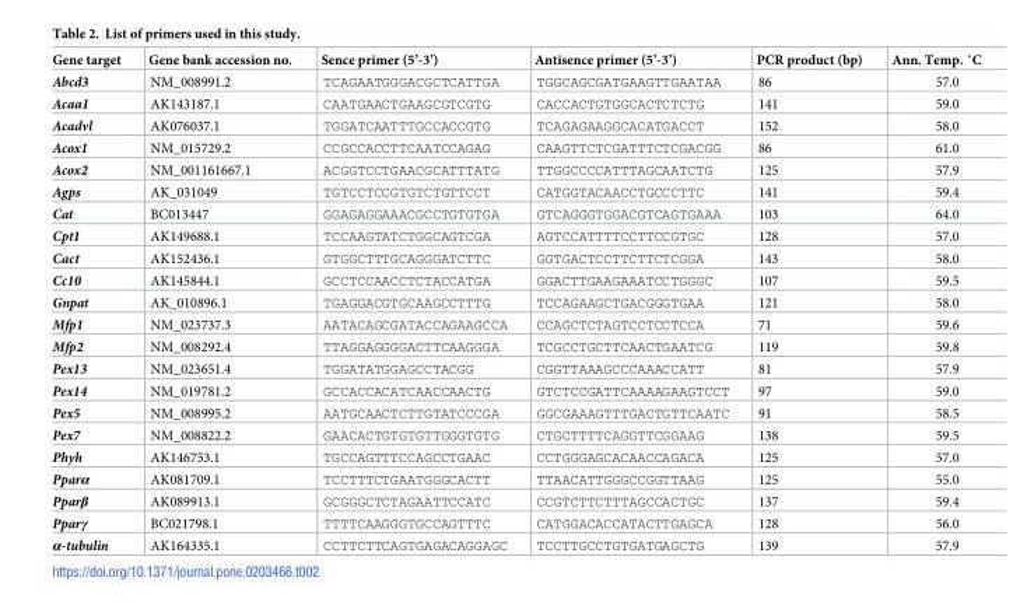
<table><thead><tr><td>Gene target</td><td>Gene bank accession no.</td><td>Sence primer (5’-3’)</td><td>Antisence primer (5’-3’)</td><td>PCR product (bp)</td><td>Ann. Temp. ˚C</td></tr></thead><tbody><tr><td>Abcd3</td><td>NM_008991.2</td><td>TCAGAATGGGACGCTCATTGA</td><td>TGGCAGCGATGAAGTTGAATAA</td><td>86</td><td>57.0</td></tr><tr><td>Acaa1</td><td>AK143187.1</td><td>CAATGAACTGAAGCGTCGTG</td><td>CACCACTGTGGCACTCTCTG</td><td>141</td><td>59.0</td></tr><tr><td>Acadvl</td><td>AK076037.1</td><td>TGGATCAATTTGCCACCGTG</td><td>TCAGAGAAGGCACATGACCT</td><td>152</td><td>58.0</td></tr><tr><td>Acox1</td><td>NM_015729.2</td><td>CCGCCACCTTCAATCCAGAG</td><td>CAAGTTCTCGATTTCTCGACGG</td><td>86</td><td>61.0</td></tr><tr><td>Acox2</td><td>NM_001161667.1</td><td>ACGGTCCTGAACGCATTTATG</td><td>TTGGCCCCATTTAGCAATCTG</td><td>125</td><td>57.9</td></tr><tr><td>Agps</td><td>AK_031049</td><td>TGTCCTCCGTGTCTGTTCCT</td><td>CATGGTACAACCTGCCCTTC</td><td>141</td><td>59.4</td></tr><tr><td>Cat</td><td>BC013447</td><td>GGAGAGGAAACGCCTGTGTGA</td><td>GTCAGGGTGGACGTCAGTGAAA</td><td>103</td><td>64.0</td></tr><tr><td>Cpt1</td><td>AK149688.1</td><td>TCCAAGTATCTGGCAGTCGA</td><td>AGTCCATTTTCCTTCCGTGC</td><td>128</td><td>57.0</td></tr><tr><td>Cact</td><td>AK152436.1</td><td>GTGGCTTTGCAGGGATCTTC</td><td>GGTGACTCCTTCTTCTCGGA</td><td>143</td><td>58.0</td></tr><tr><td>Cc10</td><td>AK145844.1</td><td>GCCTCCAACCTCTACCATGA</td><td>GGACTTGAAGAAATCCTGGGC</td><td>107</td><td>59.5</td></tr><tr><td>Gnpat</td><td>AK_010896.1</td><td>TGAGGACGTGCAAGCCTTTG</td><td>TCCAGAAGCTGACGGGTGAA</td><td>121</td><td>58.0</td></tr><tr><td>Mfp1</td><td>NM_023737.3</td><td>AATACAGCGATACCAGAAGCCA</td><td>CCAGCTCTAGTCCTCCTCCA</td><td>71</td><td>59.6</td></tr><tr><td>Mfp2</td><td>NM_008292.4</td><td>TTAGGAGGGGACTTCAAGGGA</td><td>TCGCCTGCTTCAACTGAATCG</td><td>119</td><td>59.8</td></tr><tr><td>Pex13</td><td>NM_023651.4</td><td>TGGATATGGAGCCTACGG</td><td>CGGTTAAAGCCCAAACCATT</td><td>81</td><td>57.9</td></tr><tr><td>Pex14</td><td>NM_019781.2</td><td>GCCACCACATCAACCAACTG</td><td>GTCTCCGATTCAAAAGAAGTCCT</td><td>97</td><td>59.0</td></tr><tr><td>Pex5</td><td>NM_008995.2</td><td>AATGCAACTCTTGTATCCCGA</td><td>GGCGAAAGTTTGACTGTTCAATC</td><td>91</td><td>58.5</td></tr><tr><td>Pex7</td><td>NM_008822.2</td><td>GAACACTGTGTGTTGGGTGTG</td><td>CTGCTTTTCAGGTTCGGAAG</td><td>138</td><td>59.5</td></tr><tr><td>Phyh</td><td>AK146753.1</td><td>TGCCAGTTTCCAGCCTGAAC</td><td>CCTGGGAGCACAACCAGACA</td><td>125</td><td>57.0</td></tr><tr><td>Pparα</td><td>AK081709.1</td><td>TCCTTTCTGAATGGGCACTT</td><td>TTAACATTGGGCCGGTTAAG</td><td>125</td><td>55.0</td></tr><tr><td>Pparβ</td><td>AK089913.1</td><td>GCGGGCTCTAGAATTCCATC</td><td>CCGTCTTCTTTAGCCACTGC</td><td>137</td><td>59.4</td></tr><tr><td>Pparγ</td><td>BC021798.1</td><td>TTTTCAAGGGTGCCAGTTTC</td><td>CATGGACACCATACTTGAGCA</td><td>128</td><td>56.0</td></tr><tr><td>α-tubulin</td><td>AK164335.1</td><td>CCTTCTTCAGTGAGACAGGAGC</td><td>TCCTTGCCTGTGATGAGCTG</td><td>139</td><td>57.9</td></tr></tbody></table>